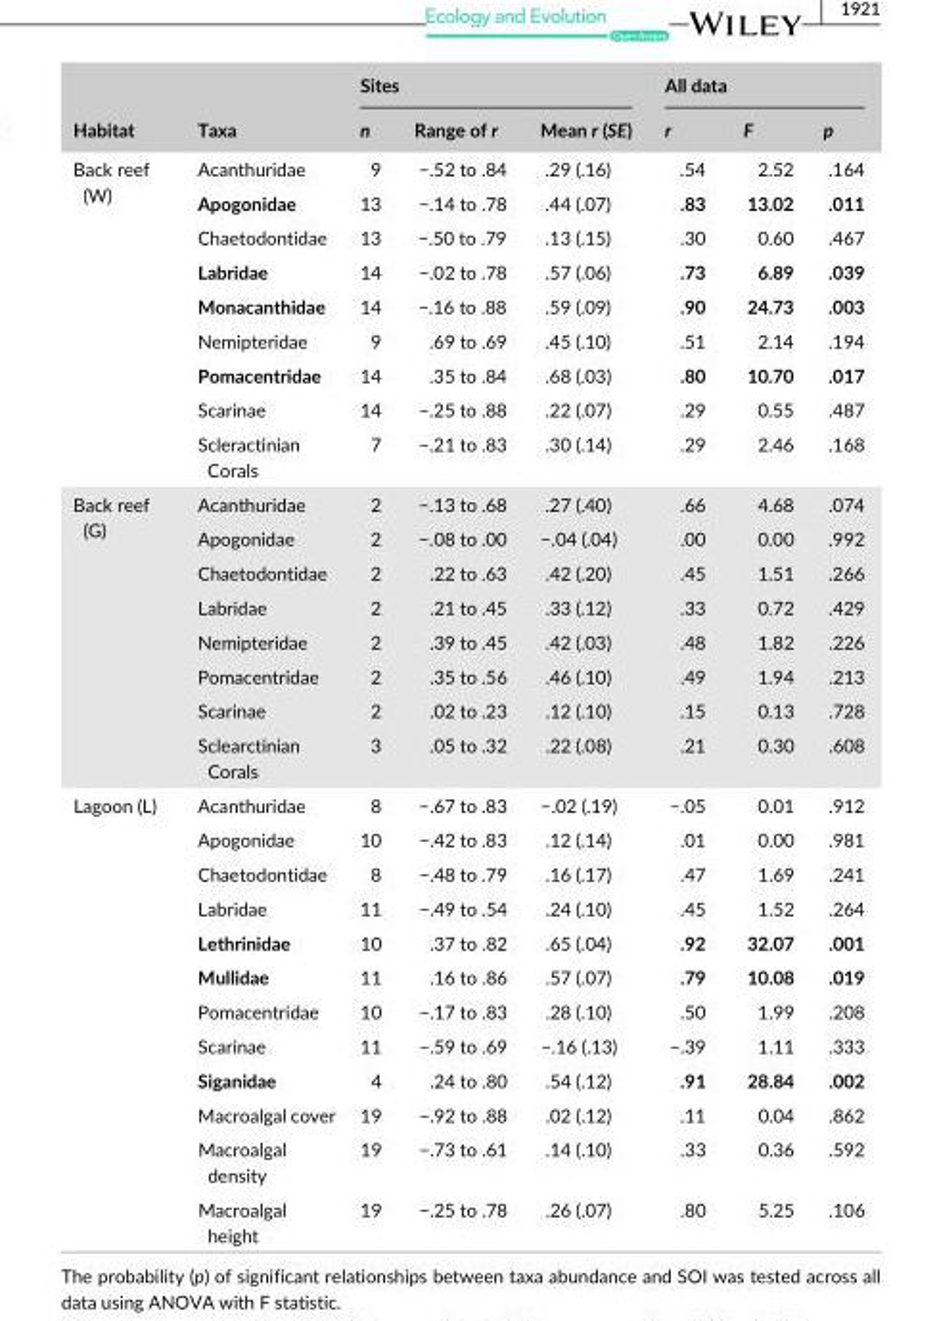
<table><thead><tr><td rowspan="2">Habitat</td><td rowspan="2">Taxa</td><td colspan="3">Sites</td><td colspan="3">All data</td></tr><tr><td>n</td><td>Range of r</td><td>Mean r (SE)</td><td>r</td><td>F</td><td>p</td></tr></thead><tbody><tr><td rowspan="9">Back reef (W)</td><td>Acanthuridae</td><td>9</td><td>−.52 to .84</td><td>.29 (.16)</td><td>.54</td><td>2.52</td><td>.164</td></tr><tr><td>Apogonidae</td><td>13</td><td>−.14 to .78</td><td>.44 (.07)</td><td>.83</td><td>13.02</td><td>.011</td></tr><tr><td>Chaetodontidae</td><td>13</td><td>−.50 to .79</td><td>.13 (.15)</td><td>.30</td><td>0.60</td><td>.467</td></tr><tr><td>Labridae</td><td>14</td><td>−.02 to .78</td><td>.57 (.06)</td><td>.73</td><td>6.89</td><td>.039</td></tr><tr><td>Monacanthidae</td><td>14</td><td>−.16 to .88</td><td>.59 (.09)</td><td>.90</td><td>24.73</td><td>.003</td></tr><tr><td>Nemipteridae</td><td>9</td><td>.69 to .69</td><td>.45 (.10)</td><td>.51</td><td>2.14</td><td>.194</td></tr><tr><td>Pomacentridae</td><td>14</td><td>.35 to .84</td><td>.68 (.03)</td><td>.80</td><td>10.70</td><td>.017</td></tr><tr><td>Scarinae</td><td>14</td><td>−.25 to .88</td><td>.22 (.07)</td><td>.29</td><td>0.55</td><td>.487</td></tr><tr><td>Scleractinian Corals</td><td>7</td><td>−.21 to .83</td><td>.30 (.14)</td><td>.29</td><td>2.46</td><td>.168</td></tr><tr><td rowspan="8">Back reef (G)</td><td>Acanthuridae</td><td>2</td><td>−.13 to .68</td><td>.27 (.40)</td><td>.66</td><td>4.68</td><td>.074</td></tr><tr><td>Apogonidae</td><td>2</td><td>−.08 to .00</td><td>−.04 (.04)</td><td>.00</td><td>0.00</td><td>.992</td></tr><tr><td>Chaetodontidae</td><td>2</td><td>.22 to .63</td><td>.42 (.20)</td><td>.45</td><td>1.51</td><td>.266</td></tr><tr><td>Labridae</td><td>2</td><td>.21 to .45</td><td>.33 (.12)</td><td>.33</td><td>0.72</td><td>.429</td></tr><tr><td>Nemipteridae</td><td>2</td><td>.39 to .45</td><td>.42 (.03)</td><td>.48</td><td>1.82</td><td>.226</td></tr><tr><td>Pomacentridae</td><td>2</td><td>.35 to .56</td><td>.46 (.10)</td><td>.49</td><td>1.94</td><td>.213</td></tr><tr><td>Scarinae</td><td>2</td><td>.02 to .23</td><td>.12 (.10)</td><td>.15</td><td>0.13</td><td>.728</td></tr><tr><td>Sclearctinian Corals</td><td>3</td><td>.05 to .32</td><td>.22 (.08)</td><td>.21</td><td>0.30</td><td>.608</td></tr><tr><td rowspan="12">Lagoon (L)</td><td>Acanthuridae</td><td>8</td><td>−.67 to .83</td><td>−.02 (.19)</td><td>−.05</td><td>0.01</td><td>.912</td></tr><tr><td>Apogonidae</td><td>10</td><td>−.42 to .83</td><td>.12 (.14)</td><td>.01</td><td>0.00</td><td>.981</td></tr><tr><td>Chaetodontidae</td><td>8</td><td>−.48 to .79</td><td>.16 (.17)</td><td>.47</td><td>1.69</td><td>.241</td></tr><tr><td>Labridae</td><td>11</td><td>−.49 to .54</td><td>.24 (.10)</td><td>.45</td><td>1.52</td><td>.264</td></tr><tr><td>Lethrinidae</td><td>10</td><td>.37 to .82</td><td>.65 (.04)</td><td>.92</td><td>32.07</td><td>.001</td></tr><tr><td>Mullidae</td><td>11</td><td>.16 to .86</td><td>.57 (.07)</td><td>.79</td><td>10.08</td><td>.019</td></tr><tr><td>Pomacentridae</td><td>10</td><td>−.17 to .83</td><td>.28 (.10)</td><td>.50</td><td>1.99</td><td>.208</td></tr><tr><td>Scarinae</td><td>11</td><td>−.59 to .69</td><td>−.16 (.13)</td><td>−.39</td><td>1.11</td><td>.333</td></tr><tr><td>Siganidae</td><td>4</td><td>.24 to .80</td><td>.54 (.12)</td><td>.91</td><td>28.84</td><td>.002</td></tr><tr><td>Macroalgal cover</td><td>19</td><td>−.92 to .88</td><td>.02 (.12)</td><td>.11</td><td>0.04</td><td>.862</td></tr><tr><td>Macroalgal density</td><td>19</td><td>−.73 to .61</td><td>.14 (.10)</td><td>.33</td><td>0.36</td><td>.592</td></tr><tr><td>Macroalgal height</td><td>19</td><td>−.25 to .78</td><td>.26 (.07)</td><td>.80</td><td>5.25</td><td>.106</td></tr></tbody></table>